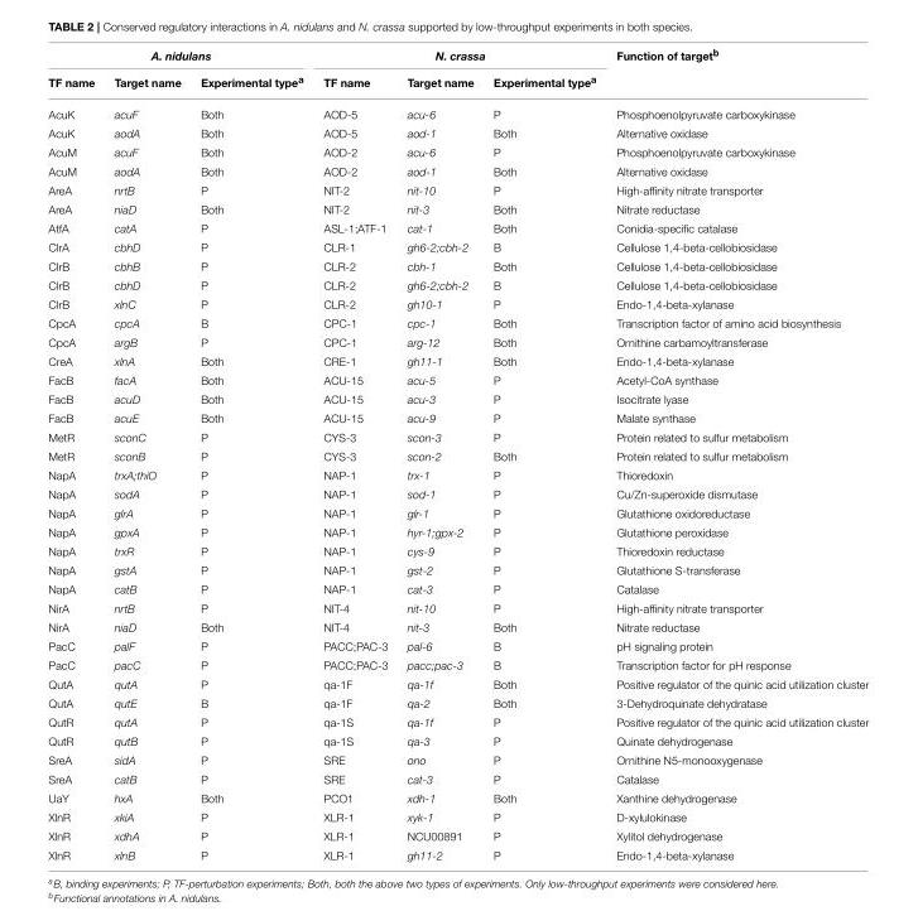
<table><thead><tr><td colspan="3">A. nidulans</td><td colspan="3">N. crassa</td><td rowspan="2">Function of target<sup>b</sup></td></tr><tr><td>TF name</td><td>Target name</td><td>Experimental type<sup>a</sup></td><td>TF name</td><td>Target name</td><td>Experimental type<sup>a</sup></td></tr></thead><tbody><tr><td>AcuK</td><td>acuF</td><td>Both</td><td>AOD-5</td><td>acu-6</td><td>P</td><td>Phosphoenolpyruvate carboxykinase</td></tr><tr><td>AcuK</td><td>aodA</td><td>Both</td><td>AOD-5</td><td>aod-1</td><td>Both</td><td>Alternative oxidase</td></tr><tr><td>AcuM</td><td>acuF</td><td>Both</td><td>AOD-2</td><td>acu-6</td><td>P</td><td>Phosphoenolpyruvate carboxykinase</td></tr><tr><td>AcuM</td><td>aodA</td><td>Both</td><td>AOD-2</td><td>aod-1</td><td>Both</td><td>Alternative oxidase</td></tr><tr><td>AreA</td><td>nrtB</td><td>P</td><td>NIT-2</td><td>nit-10</td><td>P</td><td>High-affinity nitrate transporter</td></tr><tr><td>AreA</td><td>niaD</td><td>Both</td><td>NIT-2</td><td>nit-3</td><td>Both</td><td>Nitrate reductase</td></tr><tr><td>AtfA</td><td>catA</td><td>P</td><td>ASL-1;ATF-1</td><td>cat-1</td><td>Both</td><td>Conidia-specific catalase</td></tr><tr><td>ClrA</td><td>cbhD</td><td>P</td><td>CLR-1</td><td>gh6-2;cbh-2</td><td>B</td><td>Cellulose 1,4-beta-cellobiosidase</td></tr><tr><td>ClrB</td><td>cbhB</td><td>P</td><td>CLR-2</td><td>cbh-1</td><td>Both</td><td>Cellulose 1,4-beta-cellobiosidase</td></tr><tr><td>ClrB</td><td>cbhD</td><td>P</td><td>CLR-2</td><td>gh6-2;cbh-2</td><td>B</td><td>Cellulose 1,4-beta-cellobiosidase</td></tr><tr><td>ClrB</td><td>xlnC</td><td>P</td><td>CLR-2</td><td>gh10-1</td><td>P</td><td>Endo-1,4-beta-xylanase</td></tr><tr><td>CpcA</td><td>cpcA</td><td>B</td><td>CPC-1</td><td>cpc-1</td><td>Both</td><td>Transcription factor of amino acid biosynthesis</td></tr><tr><td>CpcA</td><td>argB</td><td>P</td><td>CPC-1</td><td>arg-12</td><td>Both</td><td>Ornithine carbamoyltransferase</td></tr><tr><td>CreA</td><td>xlnA</td><td>Both</td><td>CRE-1</td><td>gh11-1</td><td>Both</td><td>Endo-1,4-beta-xylanase</td></tr><tr><td>FacB</td><td>facA</td><td>Both</td><td>ACU-15</td><td>acu-5</td><td>P</td><td>Acetyl-CoA synthase</td></tr><tr><td>FacB</td><td>acuD</td><td>Both</td><td>ACU-15</td><td>acu-3</td><td>P</td><td>Isocitrate lyase</td></tr><tr><td>FacB</td><td>acuE</td><td>Both</td><td>ACU-15</td><td>acu-9</td><td>P</td><td>Malate synthase</td></tr><tr><td>MetR</td><td>sconC</td><td>P</td><td>CYS-3</td><td>scon-3</td><td>P</td><td>Protein related to sulfur metabolism</td></tr><tr><td>MetR</td><td>sconB</td><td>P</td><td>CYS-3</td><td>scon-2</td><td>Both</td><td>Protein related to sulfur metabolism</td></tr><tr><td>NapA</td><td>trxA;thiO</td><td>P</td><td>NAP-1</td><td>trx-1</td><td>P</td><td>Thioredoxin</td></tr><tr><td>NapA</td><td>sodA</td><td>P</td><td>NAP-1</td><td>sod-1</td><td>P</td><td>Cu/Zn-superoxide dismutase</td></tr><tr><td>NapA</td><td>glrA</td><td>P</td><td>NAP-1</td><td>glr-1</td><td>P</td><td>Glutathione oxidoreductase</td></tr><tr><td>NapA</td><td>gpxA</td><td>P</td><td>NAP-1</td><td>hyr-1;gpx-2</td><td>P</td><td>Glutathione peroxidase</td></tr><tr><td>NapA</td><td>trxR</td><td>P</td><td>NAP-1</td><td>cys-9</td><td>P</td><td>Thioredoxin reductase</td></tr><tr><td>NapA</td><td>gstA</td><td>P</td><td>NAP-1</td><td>gst-2</td><td>P</td><td>Glutathione S-transferase</td></tr><tr><td>NapA</td><td>catB</td><td>P</td><td>NAP-1</td><td>cat-3</td><td>P</td><td>Catalase</td></tr><tr><td>NirA</td><td>nrtB</td><td>P</td><td>NIT-4</td><td>nit-10</td><td>P</td><td>High-affinity nitrate transporter</td></tr><tr><td>NirA</td><td>niaD</td><td>Both</td><td>NIT-4</td><td>nit-3</td><td>Both</td><td>Nitrate reductase</td></tr><tr><td>PacC</td><td>palF</td><td>P</td><td>PACC;PAC-3</td><td>pal-6</td><td>B</td><td>pH signaling protein</td></tr><tr><td>PacC</td><td>pacC</td><td>P</td><td>PACC;PAC-3</td><td>pacc;pac-3</td><td>B</td><td>Transcription factor for pH response</td></tr><tr><td>QutA</td><td>qutA</td><td>P</td><td>qa-1F</td><td>qa-1f</td><td>Both</td><td>Positive regulator of the quinic acid utilization cluster</td></tr><tr><td>QutA</td><td>qutE</td><td>B</td><td>qa-1F</td><td>qa-2</td><td>Both</td><td>3-Dehydroquinate dehydratase</td></tr><tr><td>QutR</td><td>qutA</td><td>P</td><td>qa-1S</td><td>qa-1f</td><td>P</td><td>Positive regulator of the quinic acid utilization cluster</td></tr><tr><td>QutR</td><td>qutB</td><td>P</td><td>qa-1S</td><td>qa-3</td><td>P</td><td>Quinate dehydrogenase</td></tr><tr><td>SreA</td><td>sidA</td><td>P</td><td>SRE</td><td>ono</td><td>P</td><td>Ornithine N5-monooxygenase</td></tr><tr><td>SreA</td><td>catB</td><td>P</td><td>SRE</td><td>cat-3</td><td>P</td><td>Catalase</td></tr><tr><td>UaY</td><td>hxA</td><td>Both</td><td>PCO1</td><td>xdh-1</td><td>Both</td><td>Xanthine dehydrogenase</td></tr><tr><td>XlnR</td><td>xkiA</td><td>P</td><td>XLR-1</td><td>xyk-1</td><td>P</td><td>D-xylulokinase</td></tr><tr><td>XlnR</td><td>xdhA</td><td>P</td><td>XLR-1</td><td>NCU00891</td><td>P</td><td>Xylitol dehydrogenase</td></tr><tr><td>XlnR</td><td>xlnB</td><td>P</td><td>XLR-1</td><td>gh11-2</td><td>P</td><td>Endo-1,4-beta-xylanase</td></tr></tbody></table>